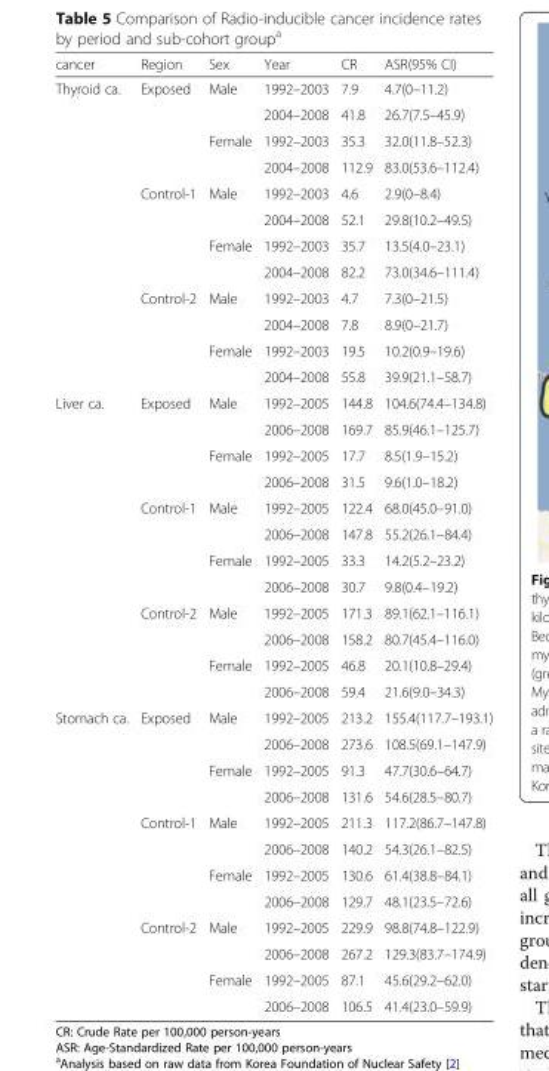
<table><thead><tr><td>cancer</td><td>Region</td><td>Sex</td><td>Year</td><td>CR</td><td>ASR(95% CI)</td></tr></thead><tbody><tr><td rowspan="12">Thyroid ca.</td><td rowspan="4">Exposed</td><td rowspan="2">Male</td><td>1992–2003</td><td>7.9</td><td>4.7(0–11.2)</td></tr><tr><td>2004–2008</td><td>41.8</td><td>26.7(7.5–45.9)</td></tr><tr><td rowspan="2">Female</td><td>1992–2003</td><td>35.3</td><td>32.0(11.8–52.3)</td></tr><tr><td>2004–2008</td><td>112.9</td><td>83.0(53.6–112.4)</td></tr><tr><td rowspan="4">Control-1</td><td rowspan="2">Male</td><td>1992–2003</td><td>4.6</td><td>2.9(0–8.4)</td></tr><tr><td>2004–2008</td><td>52.1</td><td>29.8(10.2–49.5)</td></tr><tr><td rowspan="2">Female</td><td>1992–2003</td><td>35.7</td><td>13.5(4.0–23.1)</td></tr><tr><td>2004–2008</td><td>82.2</td><td>73.0(34.6–111.4)</td></tr><tr><td rowspan="4">Control-2</td><td rowspan="2">Male</td><td>1992–2003</td><td>4.7</td><td>7.3(0–21.5)</td></tr><tr><td>2004–2008</td><td>7.8</td><td>8.9(0–21.7)</td></tr><tr><td rowspan="2">Female</td><td>1992–2003</td><td>19.5</td><td>10.2(0.9–19.6)</td></tr><tr><td>2004–2008</td><td>55.8</td><td>39.9(21.1–58.7)</td></tr><tr><td rowspan="12">Liver ca.</td><td rowspan="4">Exposed</td><td rowspan="2">Male</td><td>1992–2005</td><td>144.8</td><td>104.6(74.4–134.8)</td></tr><tr><td>2006–2008</td><td>169.7</td><td>85.9(46.1–125.7)</td></tr><tr><td rowspan="2">Female</td><td>1992–2005</td><td>17.7</td><td>8.5(1.9–15.2)</td></tr><tr><td>2006–2008</td><td>31.5</td><td>9.6(1.0–18.2)</td></tr><tr><td rowspan="4">Control-1</td><td rowspan="2">Male</td><td>1992–2005</td><td>122.4</td><td>68.0(45.0–91.0)</td></tr><tr><td>2006–2008</td><td>147.8</td><td>55.2(26.1–84.4)</td></tr><tr><td rowspan="2">Female</td><td>1992–2005</td><td>33.3</td><td>14.2(5.2–23.2)</td></tr><tr><td>2006–2008</td><td>30.7</td><td>9.8(0.4–19.2)</td></tr><tr><td rowspan="4">Control-2</td><td rowspan="2">Male</td><td>1992–2005</td><td>171.3</td><td>89.1(62.1–116.1)</td></tr><tr><td>2006–2008</td><td>158.2</td><td>80.7(45.4–116.0)</td></tr><tr><td rowspan="2">Female</td><td>1992–2005</td><td>46.8</td><td>20.1(10.8–29.4)</td></tr><tr><td>2006–2008</td><td>59.4</td><td>21.6(9.0–34.3)</td></tr><tr><td rowspan="12">Stomach ca.</td><td rowspan="4">Exposed</td><td rowspan="2">Male</td><td>1992–2005</td><td>213.2</td><td>155.4(117.7–193.1)</td></tr><tr><td>2006–2008</td><td>273.6</td><td>108.5(69.1–147.9)</td></tr><tr><td rowspan="2">Female</td><td>1992–2005</td><td>91.3</td><td>47.7(30.6–64.7)</td></tr><tr><td>2006–2008</td><td>131.6</td><td>54.6(28.5–80.7)</td></tr><tr><td rowspan="4">Control-1</td><td rowspan="2">Male</td><td>1992–2005</td><td>211.3</td><td>117.2(86.7–147.8)</td></tr><tr><td>2006–2008</td><td>140.2</td><td>54.3(26.1–82.5)</td></tr><tr><td rowspan="2">Female</td><td>1992–2005</td><td>130.6</td><td>61.4(38.8–84.1)</td></tr><tr><td>2006–2008</td><td>129.7</td><td>48.1(23.5–72.6)</td></tr><tr><td rowspan="4">Control-2</td><td rowspan="2">Male</td><td>1992–2005</td><td>229.9</td><td>98.8(74.8–122.9)</td></tr><tr><td>2006–2008</td><td>267.2</td><td>129.3(83.7–174.9)</td></tr><tr><td rowspan="2">Female</td><td>1992–2005</td><td>87.1</td><td>45.6(29.2–62.0)</td></tr><tr><td>2006–2008</td><td>106.5</td><td>41.4(23.0–59.9)</td></tr></tbody></table>